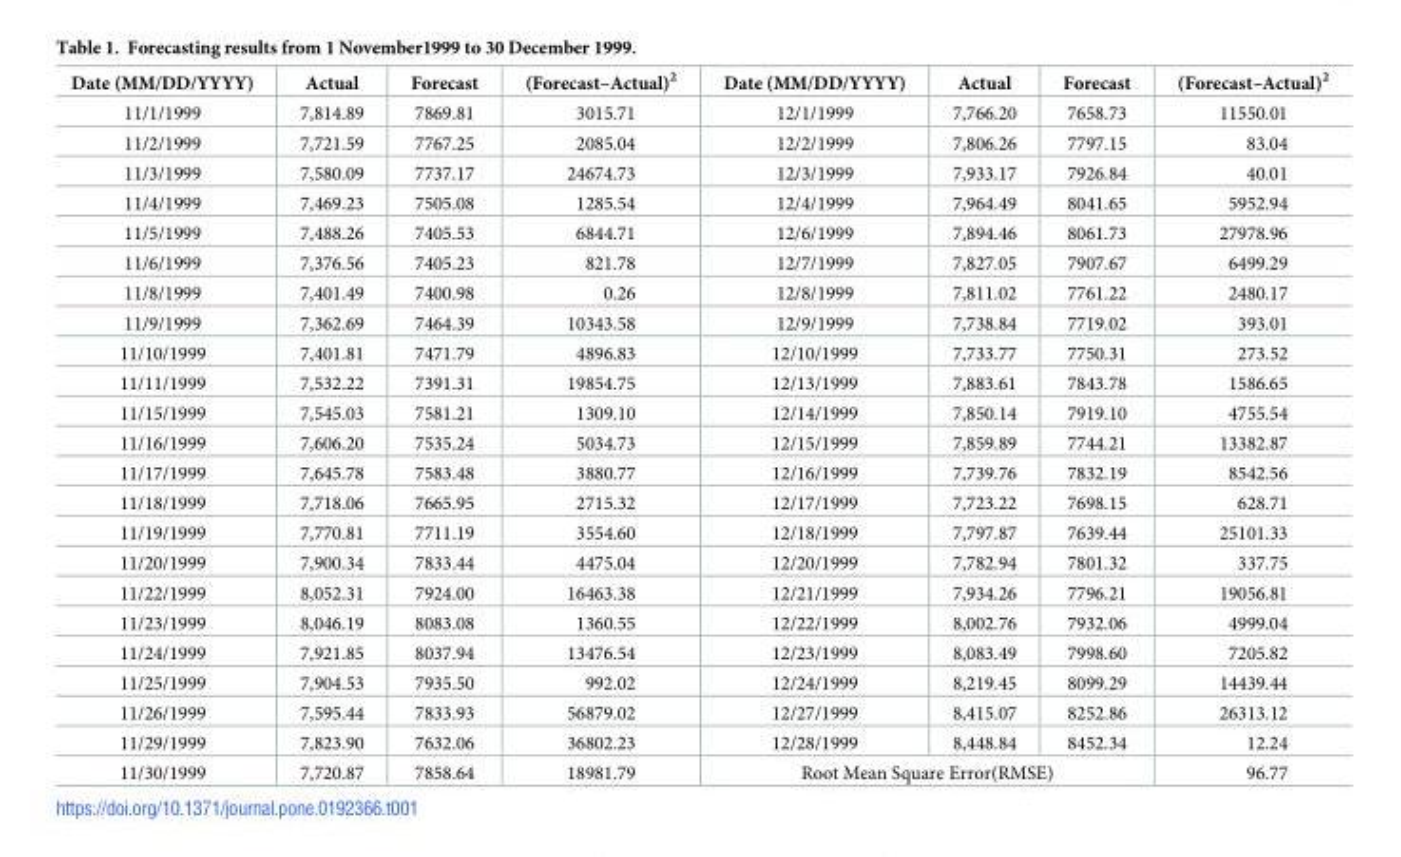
<table><thead><tr><td>Date (MM/DD/YYYY)</td><td>Actual</td><td>Forecast</td><td>(Forecast–Actual)<sup>2</sup></td><td>Date (MM/DD/YYYY)</td><td>Actual</td><td>Forecast</td><td>(Forecast–Actual)<sup>2</sup></td></tr></thead><tbody><tr><td>11/1/1999</td><td>7,814.89</td><td>7869.81</td><td>3015.71</td><td>12/1/1999</td><td>7,766.20</td><td>7658.73</td><td>11550.01</td></tr><tr><td>11/2/1999</td><td>7,721.59</td><td>7767.25</td><td>2085.04</td><td>12/2/1999</td><td>7,806.26</td><td>7797.15</td><td>83.04</td></tr><tr><td>11/3/1999</td><td>7,580.09</td><td>7737.17</td><td>24674.73</td><td>12/3/1999</td><td>7,933.17</td><td>7926.84</td><td>40.01</td></tr><tr><td>11/4/1999</td><td>7,469.23</td><td>7505.08</td><td>1285.54</td><td>12/4/1999</td><td>7,964.49</td><td>8041.65</td><td>5952.94</td></tr><tr><td>11/5/1999</td><td>7,488.26</td><td>7405.53</td><td>6844.71</td><td>12/6/1999</td><td>7,894.46</td><td>8061.73</td><td>27978.96</td></tr><tr><td>11/6/1999</td><td>7,376.56</td><td>7405.23</td><td>821.78</td><td>12/7/1999</td><td>7,827.05</td><td>7907.67</td><td>6499.29</td></tr><tr><td>11/8/1999</td><td>7,401.49</td><td>7400.98</td><td>0.26</td><td>12/8/1999</td><td>7,811.02</td><td>7761.22</td><td>2480.17</td></tr><tr><td>11/9/1999</td><td>7,362.69</td><td>7464.39</td><td>10343.58</td><td>12/9/1999</td><td>7,738.84</td><td>7719.02</td><td>393.01</td></tr><tr><td>11/10/1999</td><td>7,401.81</td><td>7471.79</td><td>4896.83</td><td>12/10/1999</td><td>7,733.77</td><td>7750.31</td><td>273.52</td></tr><tr><td>11/11/1999</td><td>7,532.22</td><td>7391.31</td><td>19854.75</td><td>12/13/1999</td><td>7,883.61</td><td>7843.78</td><td>1586.65</td></tr><tr><td>11/15/1999</td><td>7,545.03</td><td>7581.21</td><td>1309.10</td><td>12/14/1999</td><td>7,850.14</td><td>7919.10</td><td>4755.54</td></tr><tr><td>11/16/1999</td><td>7,606.20</td><td>7535.24</td><td>5034.73</td><td>12/15/1999</td><td>7,859.89</td><td>7744.21</td><td>13382.87</td></tr><tr><td>11/17/1999</td><td>7,645.78</td><td>7583.48</td><td>3880.77</td><td>12/16/1999</td><td>7,739.76</td><td>7832.19</td><td>8542.56</td></tr><tr><td>11/18/1999</td><td>7,718.06</td><td>7665.95</td><td>2715.32</td><td>12/17/1999</td><td>7,723.22</td><td>7698.15</td><td>628.71</td></tr><tr><td>11/19/1999</td><td>7,770.81</td><td>7711.19</td><td>3554.60</td><td>12/18/1999</td><td>7,797.87</td><td>7639.44</td><td>25101.33</td></tr><tr><td>11/20/1999</td><td>7,900.34</td><td>7833.44</td><td>4475.04</td><td>12/20/1999</td><td>7,782.94</td><td>7801.32</td><td>337.75</td></tr><tr><td>11/22/1999</td><td>8,052.31</td><td>7924.00</td><td>16463.38</td><td>12/21/1999</td><td>7,934.26</td><td>7796.21</td><td>19056.81</td></tr><tr><td>11/23/1999</td><td>8,046.19</td><td>8083.08</td><td>1360.55</td><td>12/22/1999</td><td>8,002.76</td><td>7932.06</td><td>4999.04</td></tr><tr><td>11/24/1999</td><td>7,921.85</td><td>8037.94</td><td>13476.54</td><td>12/23/1999</td><td>8,083.49</td><td>7998.60</td><td>7205.82</td></tr><tr><td>11/25/1999</td><td>7,904.53</td><td>7935.50</td><td>992.02</td><td>12/24/1999</td><td>8,219.45</td><td>8099.29</td><td>14439.44</td></tr><tr><td>11/26/1999</td><td>7,595.44</td><td>7833.93</td><td>56879.02</td><td>12/27/1999</td><td>8,415.07</td><td>8252.86</td><td>26313.12</td></tr><tr><td>11/29/1999</td><td>7,823.90</td><td>7632.06</td><td>36802.23</td><td>12/28/1999</td><td>8,448.84</td><td>8452.34</td><td>12.24</td></tr><tr><td>11/30/1999</td><td>7,720.87</td><td>7858.64</td><td>18981.79</td><td colspan="3">Root Mean Square Error(RMSE)</td><td>96.77</td></tr></tbody></table>